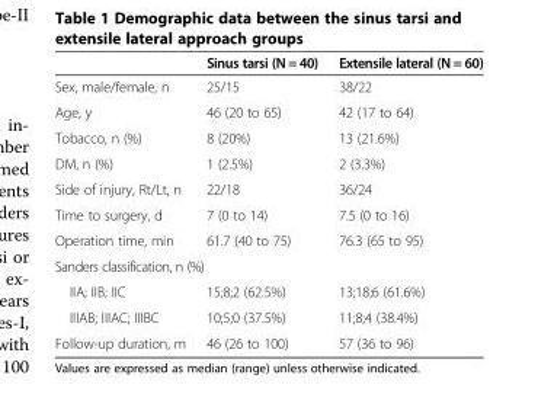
<table><thead><tr><td></td><td>Sinus tarsi (N = 40)</td><td>Extensile lateral (N = 60)</td></tr></thead><tbody><tr><td>Sex, male/female, n</td><td>25/15</td><td>38/22</td></tr><tr><td>Age, y</td><td>46 (20 to 65)</td><td>42 (17 to 64)</td></tr><tr><td>Tobacco, n (%)</td><td>8 (20%)</td><td>13 (21.6%)</td></tr><tr><td>DM, n (%)</td><td>1 (2.5%)</td><td>2 (3.3%)</td></tr><tr><td>Side of injury, Rt/Lt, n</td><td>22/18</td><td>36/24</td></tr><tr><td>Time to surgery, d</td><td>7 (0 to 14)</td><td>7.5 (0 to 16)</td></tr><tr><td>Operation time, min</td><td>61.7 (40 to 75)</td><td>76.3 (65 to 95)</td></tr><tr><td colspan="3">Sanders classification, n (%)</td></tr><tr><td>IIA; IIB; IIC</td><td>15;8;2 (62.5%)</td><td>13;18;6 (61.6%)</td></tr><tr><td>IIIAB; IIIAC; IIIBC</td><td>10;5;0 (37.5%)</td><td>11;8;4 (38.4%)</td></tr><tr><td>Follow-up duration, m</td><td>46 (26 to 100)</td><td>57 (36 to 96)</td></tr></tbody></table>